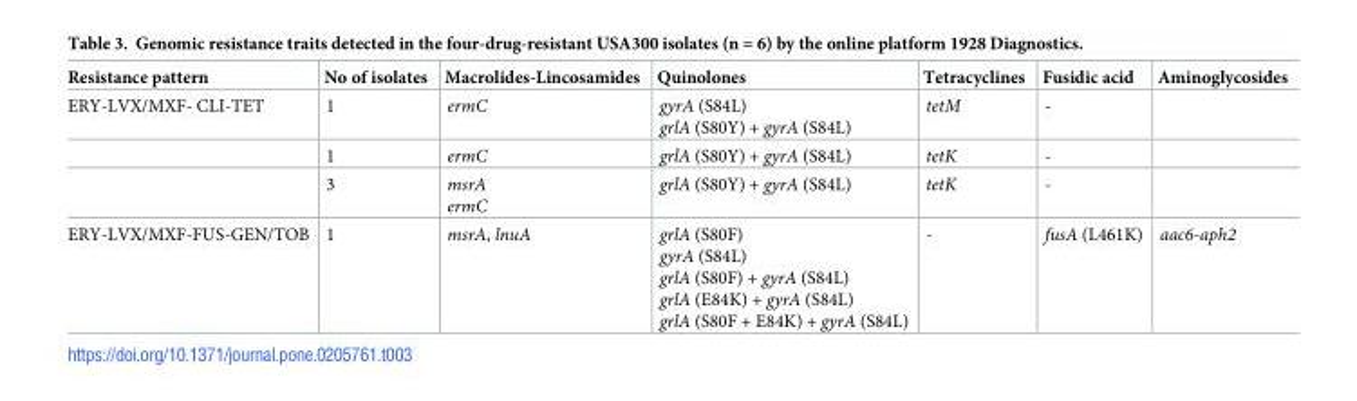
<table><thead><tr><td>Resistance pattern</td><td>No of isolates</td><td>Macrolides-Lincosamides</td><td>Quinolones</td><td>Tetracyclines</td><td>Fusidic acid</td><td>Aminoglycosides</td></tr></thead><tbody><tr><td rowspan="3">ERY-LVX/MXF- CLI-TET</td><td>1</td><td>ermC</td><td>gyrA (S84L) grlA (S80Y) + gyrA (S84L)</td><td>tetM</td><td>-</td><td></td></tr><tr><td>1</td><td>ermC</td><td>grlA (S80Y) + gyrA (S84L)</td><td>tetK</td><td>-</td><td></td></tr><tr><td>3</td><td>msrA ermC</td><td>grlA (S80Y) + gyrA (S84L)</td><td>tetK</td><td>-</td><td></td></tr><tr><td>ERY-LVX/MXF-FUS-GEN/TOB</td><td>1</td><td>msrA, lnuA</td><td>grlA (S80F) gyrA (S84L) grlA (S80F) + gyrA (S84L) grlA (E84K) + gyrA (S84L) grlA (S80F + E84K) + gyrA (S84L)</td><td>-</td><td>fusA (L461K)</td><td>aac6-aph2</td></tr></tbody></table>